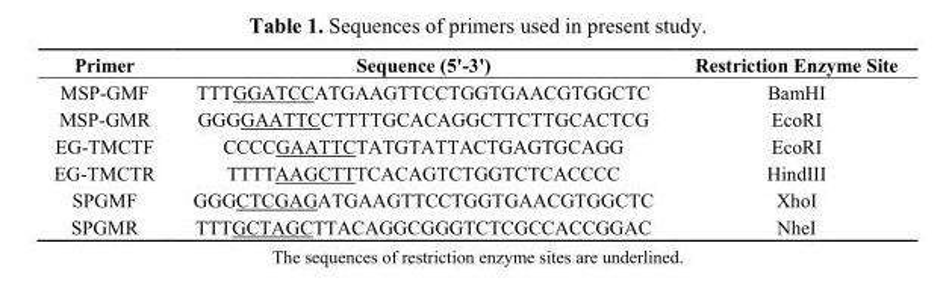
<table><thead><tr><td>Primer</td><td>Sequence (5&#x27;-3&#x27;)</td><td>Restriction Enzyme Site</td></tr></thead><tbody><tr><td>MSP-GMF</td><td>TTTGGATCCATGAAGTTCCTGGTGAACGTGGCTC</td><td>BamHI</td></tr><tr><td>MSP-GMR</td><td>GGGGAATTCCTTTTGCACAGGCTTCTTGCACTCG</td><td>EcoRI</td></tr><tr><td>EG-TMCTF</td><td>CCCCGAATTCTATGTATTACTGAGTGCAGG</td><td>EcoRI</td></tr><tr><td>EG-TMCTR</td><td>TTTTAAGCTTTCACAGTCTGGTCTCACCCC</td><td>HindIII</td></tr><tr><td>SPGMF</td><td>GGGCTCGAGATGAAGTTCCTGGTGAACGTGGCTC</td><td>XhoI</td></tr><tr><td>SPGMR</td><td>TTTGCTAGCTTACAGGCGGGTCTCGCCACCGGAC</td><td>NheI</td></tr></tbody></table>